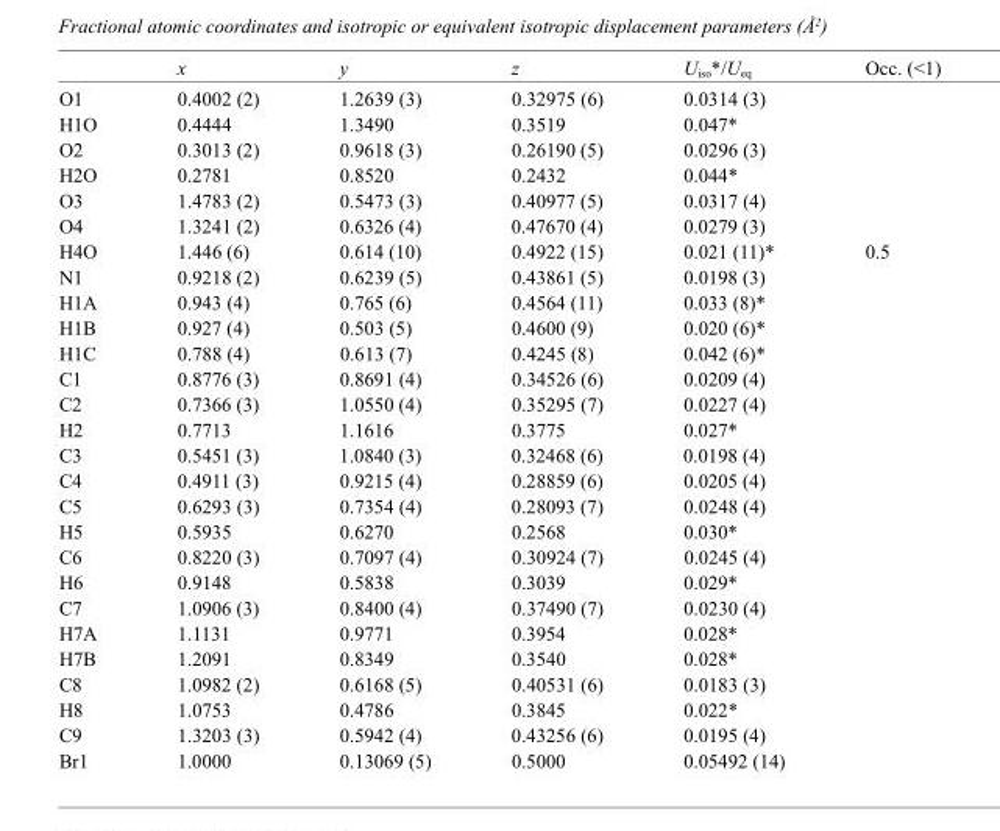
<table><thead><tr><td></td><td>x</td><td>y</td><td>z</td><td>U<sub>iso</sub>*/U<sub>eq</sub></td><td>Occ. (&lt;1)</td></tr></thead><tbody><tr><td>O1</td><td>0.4002 (2)</td><td>1.2639 (3)</td><td>0.32975 (6)</td><td>0.0314 (3)</td><td></td></tr><tr><td>H1O</td><td>0.4444</td><td>1.3490</td><td>0.3519</td><td>0.047*</td><td></td></tr><tr><td>O2</td><td>0.3013 (2)</td><td>0.9618 (3)</td><td>0.26190 (5)</td><td>0.0296 (3)</td><td></td></tr><tr><td>H2O</td><td>0.2781</td><td>0.8520</td><td>0.2432</td><td>0.044*</td><td></td></tr><tr><td>O3</td><td>1.4783 (2)</td><td>0.5473 (3)</td><td>0.40977 (5)</td><td>0.0317 (4)</td><td></td></tr><tr><td>O4</td><td>1.3241 (2)</td><td>0.6326 (4)</td><td>0.47670 (4)</td><td>0.0279 (3)</td><td></td></tr><tr><td>H4O</td><td>1.446 (6)</td><td>0.614 (10)</td><td>0.4922 (15)</td><td>0.021 (11)*</td><td>0.5</td></tr><tr><td>N1</td><td>0.9218 (2)</td><td>0.6239 (5)</td><td>0.43861 (5)</td><td>0.0198 (3)</td><td></td></tr><tr><td>H1A</td><td>0.943 (4)</td><td>0.765 (6)</td><td>0.4564 (11)</td><td>0.033 (8)*</td><td></td></tr><tr><td>H1B</td><td>0.927 (4)</td><td>0.503 (5)</td><td>0.4600 (9)</td><td>0.020 (6)*</td><td></td></tr><tr><td>H1C</td><td>0.788 (4)</td><td>0.613 (7)</td><td>0.4245 (8)</td><td>0.042 (6)*</td><td></td></tr><tr><td>C1</td><td>0.8776 (3)</td><td>0.8691 (4)</td><td>0.34526 (6)</td><td>0.0209 (4)</td><td></td></tr><tr><td>C2</td><td>0.7366 (3)</td><td>1.0550 (4)</td><td>0.35295 (7)</td><td>0.0227 (4)</td><td></td></tr><tr><td>H2</td><td>0.7713</td><td>1.1616</td><td>0.3775</td><td>0.027*</td><td></td></tr><tr><td>C3</td><td>0.5451 (3)</td><td>1.0840 (3)</td><td>0.32468 (6)</td><td>0.0198 (4)</td><td></td></tr><tr><td>C4</td><td>0.4911 (3)</td><td>0.9215 (4)</td><td>0.28859 (6)</td><td>0.0205 (4)</td><td></td></tr><tr><td>C5</td><td>0.6293 (3)</td><td>0.7354 (4)</td><td>0.28093 (7)</td><td>0.0248 (4)</td><td></td></tr><tr><td>H5</td><td>0.5935</td><td>0.6270</td><td>0.2568</td><td>0.030*</td><td></td></tr><tr><td>C6</td><td>0.8220 (3)</td><td>0.7097 (4)</td><td>0.30924 (7)</td><td>0.0245 (4)</td><td></td></tr><tr><td>H6</td><td>0.9148</td><td>0.5838</td><td>0.3039</td><td>0.029*</td><td></td></tr><tr><td>C7</td><td>1.0906 (3)</td><td>0.8400 (4)</td><td>0.37490 (7)</td><td>0.0230 (4)</td><td></td></tr><tr><td>H7A</td><td>1.1131</td><td>0.9771</td><td>0.3954</td><td>0.028*</td><td></td></tr><tr><td>H7B</td><td>1.2091</td><td>0.8349</td><td>0.3540</td><td>0.028*</td><td></td></tr><tr><td>C8</td><td>1.0982 (2)</td><td>0.6168 (5)</td><td>0.40531 (6)</td><td>0.0183 (3)</td><td></td></tr><tr><td>H8</td><td>1.0753</td><td>0.4786</td><td>0.3845</td><td>0.022*</td><td></td></tr><tr><td>C9</td><td>1.3203 (3)</td><td>0.5942 (4)</td><td>0.43256 (6)</td><td>0.0195 (4)</td><td></td></tr><tr><td>Br1</td><td>1.0000</td><td>0.13069 (5)</td><td>0.5000</td><td>0.05492 (14)</td><td></td></tr></tbody></table>